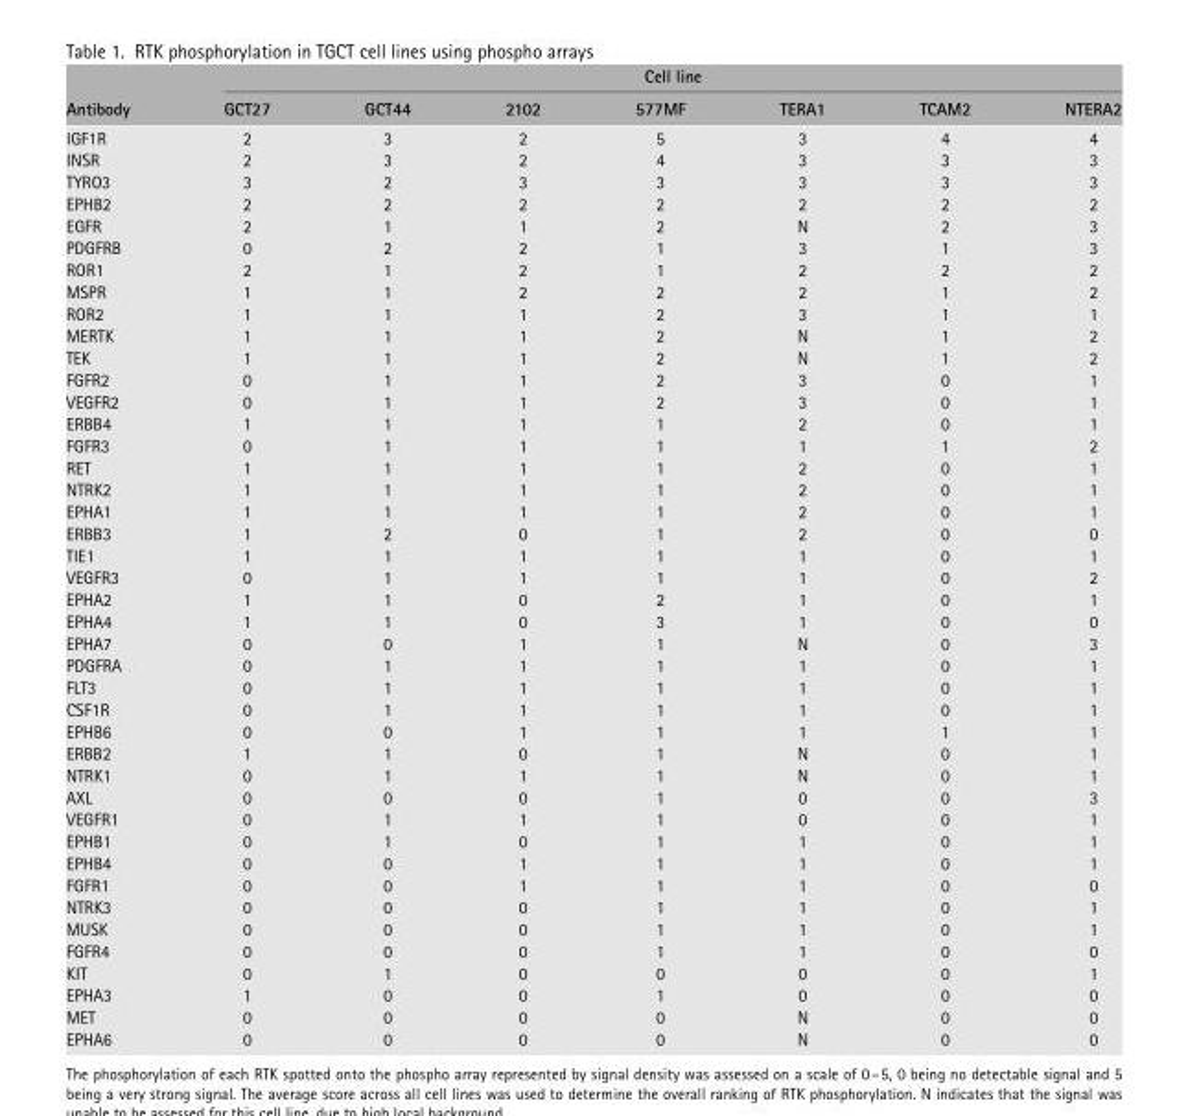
<table><thead><tr><td rowspan="2">Antibody</td><td colspan="7">Cell line</td></tr><tr><td>GCT27</td><td>GCT44</td><td>2102</td><td>577MF</td><td>TERA1</td><td>TCAM2</td><td>NTERA2</td></tr></thead><tbody><tr><td>IGF1R</td><td>2</td><td>3</td><td>2</td><td>5</td><td>3</td><td>4</td><td>4</td></tr><tr><td>INSR</td><td>2</td><td>3</td><td>2</td><td>4</td><td>3</td><td>3</td><td>3</td></tr><tr><td>TYRO3</td><td>3</td><td>2</td><td>3</td><td>3</td><td>3</td><td>3</td><td>3</td></tr><tr><td>EPHB2</td><td>2</td><td>2</td><td>2</td><td>2</td><td>2</td><td>2</td><td>2</td></tr><tr><td>EGFR</td><td>2</td><td>1</td><td>1</td><td>2</td><td>N</td><td>2</td><td>3</td></tr><tr><td>PDGFRB</td><td>0</td><td>2</td><td>2</td><td>1</td><td>3</td><td>1</td><td>3</td></tr><tr><td>ROR1</td><td>2</td><td>1</td><td>2</td><td>1</td><td>2</td><td>2</td><td>2</td></tr><tr><td>MSPR</td><td>1</td><td>1</td><td>2</td><td>2</td><td>2</td><td>1</td><td>2</td></tr><tr><td>ROR2</td><td>1</td><td>1</td><td>1</td><td>2</td><td>3</td><td>1</td><td>1</td></tr><tr><td>MERTK</td><td>1</td><td>1</td><td>1</td><td>2</td><td>N</td><td>1</td><td>2</td></tr><tr><td>TEK</td><td>1</td><td>1</td><td>1</td><td>2</td><td>N</td><td>1</td><td>2</td></tr><tr><td>FGFR2</td><td>0</td><td>1</td><td>1</td><td>2</td><td>3</td><td>0</td><td>1</td></tr><tr><td>VEGFR2</td><td>0</td><td>1</td><td>1</td><td>2</td><td>3</td><td>0</td><td>1</td></tr><tr><td>ERBB4</td><td>1</td><td>1</td><td>1</td><td>1</td><td>2</td><td>0</td><td>1</td></tr><tr><td>FGFR3</td><td>0</td><td>1</td><td>1</td><td>1</td><td>1</td><td>1</td><td>2</td></tr><tr><td>RET</td><td>1</td><td>1</td><td>1</td><td>1</td><td>2</td><td>0</td><td>1</td></tr><tr><td>NTRK2</td><td>1</td><td>1</td><td>1</td><td>1</td><td>2</td><td>0</td><td>1</td></tr><tr><td>EPHA1</td><td>1</td><td>1</td><td>1</td><td>1</td><td>2</td><td>0</td><td>1</td></tr><tr><td>ERBB3</td><td>1</td><td>2</td><td>0</td><td>1</td><td>2</td><td>0</td><td>0</td></tr><tr><td>TIE1</td><td>1</td><td>1</td><td>1</td><td>1</td><td>1</td><td>0</td><td>1</td></tr><tr><td>VEGFR3</td><td>0</td><td>1</td><td>1</td><td>1</td><td>1</td><td>0</td><td>2</td></tr><tr><td>EPHA2</td><td>1</td><td>1</td><td>0</td><td>2</td><td>1</td><td>0</td><td>1</td></tr><tr><td>EPHA4</td><td>1</td><td>1</td><td>0</td><td>3</td><td>1</td><td>0</td><td>0</td></tr><tr><td>EPHA7</td><td>0</td><td>0</td><td>1</td><td>1</td><td>N</td><td>0</td><td>3</td></tr><tr><td>PDGFRA</td><td>0</td><td>1</td><td>1</td><td>1</td><td>1</td><td>0</td><td>1</td></tr><tr><td>FLT3</td><td>0</td><td>1</td><td>1</td><td>1</td><td>1</td><td>0</td><td>1</td></tr><tr><td>CSF1R</td><td>0</td><td>1</td><td>1</td><td>1</td><td>1</td><td>0</td><td>1</td></tr><tr><td>EPHB6</td><td>0</td><td>0</td><td>1</td><td>1</td><td>1</td><td>1</td><td>1</td></tr><tr><td>ERBB2</td><td>1</td><td>1</td><td>0</td><td>1</td><td>N</td><td>0</td><td>1</td></tr><tr><td>NTRK1</td><td>0</td><td>1</td><td>1</td><td>1</td><td>N</td><td>0</td><td>1</td></tr><tr><td>AXL</td><td>0</td><td>0</td><td>0</td><td>1</td><td>0</td><td>0</td><td>3</td></tr><tr><td>VEGFR1</td><td>0</td><td>1</td><td>1</td><td>1</td><td>0</td><td>0</td><td>1</td></tr><tr><td>EPHB1</td><td>0</td><td>1</td><td>0</td><td>1</td><td>1</td><td>0</td><td>1</td></tr><tr><td>EPHB4</td><td>0</td><td>0</td><td>1</td><td>1</td><td>1</td><td>0</td><td>1</td></tr><tr><td>FGFR1</td><td>0</td><td>0</td><td>1</td><td>1</td><td>1</td><td>0</td><td>0</td></tr><tr><td>NTRK3</td><td>0</td><td>0</td><td>0</td><td>1</td><td>1</td><td>0</td><td>1</td></tr><tr><td>MUSK</td><td>0</td><td>0</td><td>0</td><td>1</td><td>1</td><td>0</td><td>1</td></tr><tr><td>FGFR4</td><td>0</td><td>0</td><td>0</td><td>1</td><td>1</td><td>0</td><td>0</td></tr><tr><td>KIT</td><td>0</td><td>1</td><td>0</td><td>0</td><td>0</td><td>0</td><td>1</td></tr><tr><td>EPHA3</td><td>1</td><td>0</td><td>0</td><td>1</td><td>0</td><td>0</td><td>0</td></tr><tr><td>MET</td><td>0</td><td>0</td><td>0</td><td>0</td><td>N</td><td>0</td><td>0</td></tr><tr><td>EPHA6</td><td>0</td><td>0</td><td>0</td><td>0</td><td>N</td><td>0</td><td>0</td></tr></tbody></table>